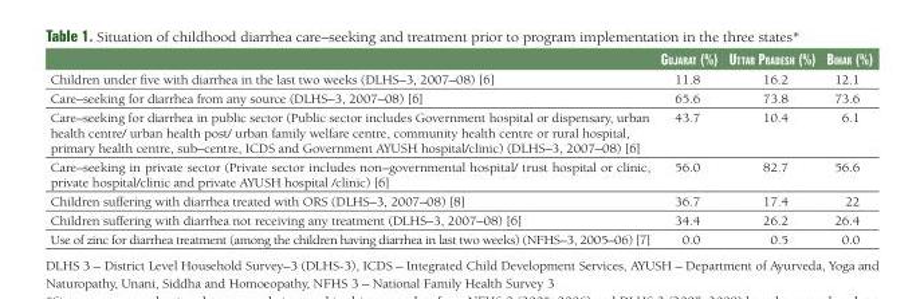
<table><thead><tr><td></td><td>Gujarat (%)</td><td>uttar Pradesh (%)</td><td>Bihar (%)</td></tr></thead><tbody><tr><td>Children under five with diarrhea in the last two weeks (DLHS–3, 2007–08) [6]</td><td>11.8</td><td>16.2</td><td>12.1</td></tr><tr><td>Care–seeking for diarrhea from any source (DLHS–3, 2007–08) [6]</td><td>65.6</td><td>73.8</td><td>73.6</td></tr><tr><td>Care–seeking for diarrhea in public sector (Public sector includes Government hospital or dispensary, urban health centre/ urban health post/ urban family welfare centre, community health centre or rural hospital, primary health centre, sub–centre, ICDS and Government AYUSH hospital/clinic) (DLHS–3, 2007–08) [6]</td><td>43.7</td><td>10.4</td><td>6.1</td></tr><tr><td>Care–seeking in private sector (Private sector includes non–governmental hospital/ trust hospital or clinic, private hospital/clinic and private AYUSH hospital /clinic) [6]</td><td>56.0</td><td>82.7</td><td>56.6</td></tr><tr><td>Children suffering with diarrhea treated with ORS (DLHS–3, 2007–08) [8]</td><td>36.7</td><td>17.4</td><td>22</td></tr><tr><td>Children suffering with diarrhea not receiving any treatment (DLHS–3, 2007–08) [6]</td><td>34.4</td><td>26.2</td><td>26.4</td></tr><tr><td>Use of zinc for diarrhea treatment (among the children having diarrhea in last two weeks) (NFHS–3, 2005–06) [7]</td><td>0.0</td><td>0.5</td><td>0.0</td></tr></tbody></table>